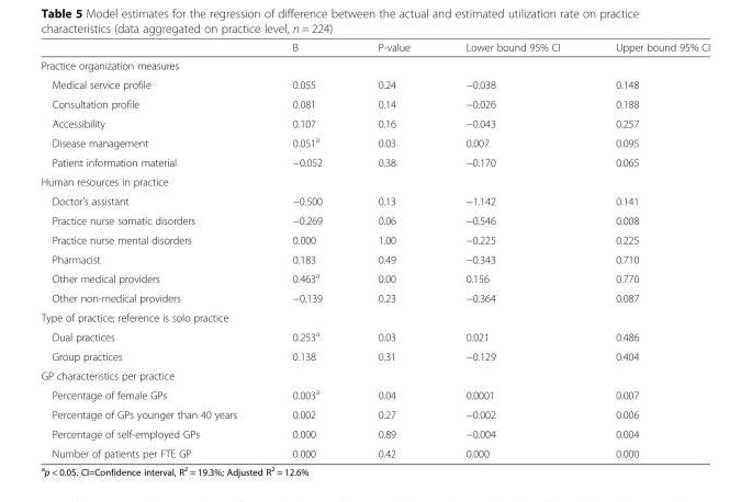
<table><thead><tr><td></td><td>B</td><td>P-value</td><td>Lower bound 95% CI</td><td>Upper bound 95% CI</td></tr></thead><tbody><tr><td colspan="5">Practice organization measures</td></tr><tr><td>Medical service profile</td><td>0.055</td><td>0.24</td><td>−0.038</td><td>0.148</td></tr><tr><td>Consultation profile</td><td>0.081</td><td>0.14</td><td>−0.026</td><td>0.188</td></tr><tr><td>Accessibility</td><td>0.107</td><td>0.16</td><td>−0.043</td><td>0.257</td></tr><tr><td>Disease management</td><td>0.051<sup>a</sup></td><td>0.03</td><td>0.007</td><td>0.095</td></tr><tr><td>Patient information material</td><td>−0.052</td><td>0.38</td><td>−0.170</td><td>0.065</td></tr><tr><td colspan="5">Human resources in practice</td></tr><tr><td>Doctor’s assistant</td><td>−0.500</td><td>0.13</td><td>−1.142</td><td>0.141</td></tr><tr><td>Practice nurse somatic disorders</td><td>−0.269</td><td>0.06</td><td>−0.546</td><td>0.008</td></tr><tr><td>Practice nurse mental disorders</td><td>0.000</td><td>1.00</td><td>−0.225</td><td>0.225</td></tr><tr><td>Pharmacist</td><td>0.183</td><td>0.49</td><td>−0.343</td><td>0.710</td></tr><tr><td>Other medical providers</td><td>0.463<sup>a</sup></td><td>0.00</td><td>0.156</td><td>0.770</td></tr><tr><td>Other non-medical providers</td><td>−0.139</td><td>0.23</td><td>−0.364</td><td>0.087</td></tr><tr><td colspan="5">Type of practice; reference is solo practice</td></tr><tr><td>Dual practices</td><td>0.253<sup>a</sup></td><td>0.03</td><td>0.021</td><td>0.486</td></tr><tr><td>Group practices</td><td>0.138</td><td>0.31</td><td>−0.129</td><td>0.404</td></tr><tr><td colspan="5">GP characteristics per practice</td></tr><tr><td>Percentage of female GPs</td><td>0.003<sup>a</sup></td><td>0.04</td><td>0.0001</td><td>0.007</td></tr><tr><td>Percentage of GPs younger than 40 years</td><td>0.002</td><td>0.27</td><td>−0.002</td><td>0.006</td></tr><tr><td>Percentage of self-employed GPs</td><td>0.000</td><td>0.89</td><td>−0.004</td><td>0.004</td></tr><tr><td>Number of patients per FTE GP</td><td>0.000</td><td>0.42</td><td>0.000</td><td>0.000</td></tr></tbody></table>